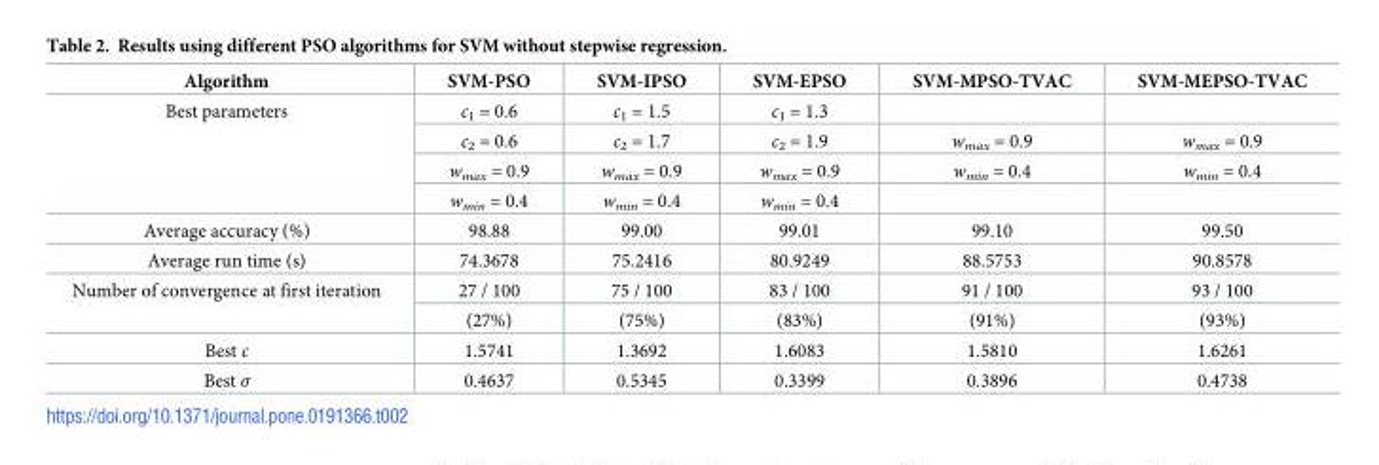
<table><thead><tr><td>Algorithm</td><td>SVM-PSO</td><td>SVM-IPSO</td><td>SVM-EPSO</td><td>SVM-MPSO-TVAC</td><td>SVM-MEPSO-TVAC</td></tr></thead><tbody><tr><td rowspan="4">Best parameters</td><td>c<sub>1</sub> = 0.6</td><td>c<sub>1</sub> = 1.5</td><td>c<sub>1</sub> = 1.3</td><td></td><td></td></tr><tr><td>c<sub>2</sub> = 0.6</td><td>c<sub>2</sub> = 1.7</td><td>c<sub>2</sub> = 1.9</td><td>w<sub>max</sub> = 0.9</td><td>w<sub>max</sub> = 0.9</td></tr><tr><td>w<sub>max</sub> = 0.9</td><td>w<sub>max</sub> = 0.9</td><td>w<sub>max</sub> = 0.9</td><td>w<sub>min</sub> = 0.4</td><td>w<sub>min</sub> = 0.4</td></tr><tr><td>w<sub>min</sub> = 0.4</td><td>w<sub>min</sub> = 0.4</td><td>w<sub>min</sub> = 0.4</td><td></td><td></td></tr><tr><td>Average accuracy (%)</td><td>98.88</td><td>99.00</td><td>99.01</td><td>99.10</td><td>99.50</td></tr><tr><td>Average run time (s)</td><td>74.3678</td><td>75.2416</td><td>80.9249</td><td>88.5753</td><td>90.8578</td></tr><tr><td rowspan="2">Number of convergence at first iteration</td><td>27 / 100</td><td>75 / 100</td><td>83 / 100</td><td>91 / 100</td><td>93 / 100</td></tr><tr><td>(27%)</td><td>(75%)</td><td>(83%)</td><td>(91%)</td><td>(93%)</td></tr><tr><td>Best c</td><td>1.5741</td><td>1.3692</td><td>1.6083</td><td>1.5810</td><td>1.6261</td></tr><tr><td>Best σ</td><td>0.4637</td><td>0.5345</td><td>0.3399</td><td>0.3896</td><td>0.4738</td></tr></tbody></table>